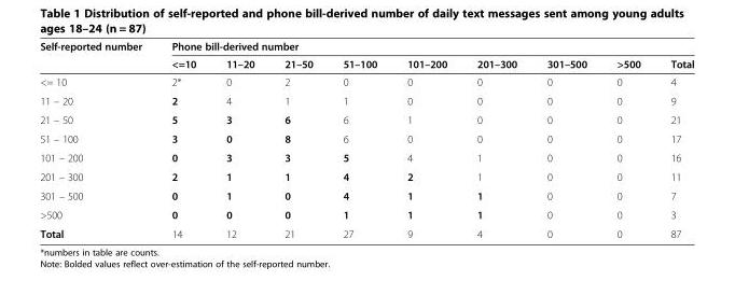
<table><thead><tr><td rowspan="2">Self-reported number</td><td colspan="9">Phone bill-derived number</td></tr><tr><td>&lt;=10</td><td>11–20</td><td>21–50</td><td>51–100</td><td>101–200</td><td>201–300</td><td>301–500</td><td>&gt;500</td><td>Total</td></tr></thead><tbody><tr><td>&lt;= 10</td><td>2*</td><td>0</td><td>2</td><td>0</td><td>0</td><td>0</td><td>0</td><td>0</td><td>4</td></tr><tr><td>11 – 20</td><td>2</td><td>4</td><td>1</td><td>1</td><td>0</td><td>0</td><td>0</td><td>0</td><td>9</td></tr><tr><td>21 – 50</td><td>5</td><td>3</td><td>6</td><td>6</td><td>1</td><td>0</td><td>0</td><td>0</td><td>21</td></tr><tr><td>51 – 100</td><td>3</td><td>0</td><td>8</td><td>6</td><td>0</td><td>0</td><td>0</td><td>0</td><td>17</td></tr><tr><td>101 – 200</td><td>0</td><td>3</td><td>3</td><td>5</td><td>4</td><td>1</td><td>0</td><td>0</td><td>16</td></tr><tr><td>201 – 300</td><td>2</td><td>1</td><td>1</td><td>4</td><td>2</td><td>1</td><td>0</td><td>0</td><td>11</td></tr><tr><td>301 – 500</td><td>0</td><td>1</td><td>0</td><td>4</td><td>1</td><td>1</td><td>0</td><td>0</td><td>7</td></tr><tr><td>&gt;500</td><td>0</td><td>0</td><td>0</td><td>1</td><td>1</td><td>1</td><td>0</td><td>0</td><td>3</td></tr><tr><td>Total</td><td>14</td><td>12</td><td>21</td><td>27</td><td>9</td><td>4</td><td>0</td><td>0</td><td>87</td></tr></tbody></table>